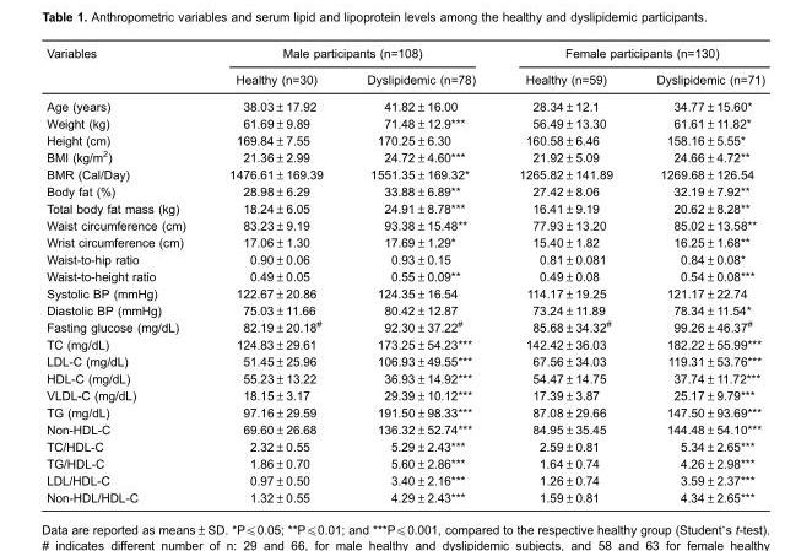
<table><thead><tr><td rowspan="2">Variables</td><td colspan="2">Male participants (n=108)</td><td colspan="2">Female participants (n=130)</td></tr><tr><td>Healthy (n=30)</td><td>Dyslipidemic (n=78)</td><td>Healthy (n=59)</td><td>Dyslipidemic (n=71)</td></tr></thead><tbody><tr><td>Age (years)</td><td>38.03±17.92</td><td>41.82±16.00</td><td>28.34±12.1</td><td>34.77±15.60*</td></tr><tr><td>Weight (kg)</td><td>61.69±9.89</td><td>71.48±12.9***</td><td>56.49±13.30</td><td>61.61±11.82*</td></tr><tr><td>Height (cm)</td><td>169.84±7.55</td><td>170.25±6.30</td><td>160.58±6.46</td><td>158.16±5.55*</td></tr><tr><td>BMI (kg/m<sup>2</sup>)</td><td>21.36±2.99</td><td>24.72±4.60***</td><td>21.92±5.09</td><td>24.66±4.72**</td></tr><tr><td>BMR (Cal/Day)</td><td>1476.61±169.39</td><td>1551.35±169.32*</td><td>1265.82±141.89</td><td>1269.68±126.54</td></tr><tr><td>Body fat (%)</td><td>28.98±6.29</td><td>33.88±6.89**</td><td>27.42±8.06</td><td>32.19±7.92**</td></tr><tr><td>Total body fat mass (kg)</td><td>18.24±6.05</td><td>24.91±8.78***</td><td>16.41±9.19</td><td>20.62±8.28**</td></tr><tr><td>Waist circumference (cm)</td><td>83.23±9.19</td><td>93.38±15.48**</td><td>77.93±13.20</td><td>85.02±13.58**</td></tr><tr><td>Wrist circumference (cm)</td><td>17.06±1.30</td><td>17.69±1.29*</td><td>15.40±1.82</td><td>16.25±1.68**</td></tr><tr><td>Waist-to-hip ratio</td><td>0.90±0.06</td><td>0.93±0.15</td><td>0.81±0.081</td><td>0.84±0.08*</td></tr><tr><td>Waist-to-height ratio</td><td>0.49±0.05</td><td>0.55±0.09**</td><td>0.49±0.08</td><td>0.54±0.08***</td></tr><tr><td>Systolic BP (mmHg)</td><td>122.67±20.86</td><td>124.35±16.54</td><td>114.17±19.25</td><td>121.17±22.74</td></tr><tr><td>Diastolic BP (mmHg)</td><td>75.03±11.66</td><td>80.42±12.87</td><td>73.24±11.89</td><td>78.34±11.54*</td></tr><tr><td>Fasting glucose (mg/dL)</td><td>82.19±20.18<sup>#</sup></td><td>92.30±37.22<sup>#</sup></td><td>85.68±34.32<sup>#</sup></td><td>99.26±46.37<sup>#</sup></td></tr><tr><td>TC (mg/dL)</td><td>124.83±29.61</td><td>173.25±54.23***</td><td>142.42±36.03</td><td>182.22±55.99***</td></tr><tr><td>LDL-C (mg/dL)</td><td>51.45±25.96</td><td>106.93±49.55***</td><td>67.56±34.03</td><td>119.31±53.76***</td></tr><tr><td>HDL-C (mg/dL)</td><td>55.23±13.22</td><td>36.93±14.92***</td><td>54.47±14.75</td><td>37.74±11.72***</td></tr><tr><td>VLDL-C (mg/dL)</td><td>18.15±3.17</td><td>29.39±10.12***</td><td>17.39±3.87</td><td>25.17±9.79***</td></tr><tr><td>TG (mg/dL)</td><td>97.16±29.59</td><td>191.50±98.33***</td><td>87.08±29.66</td><td>147.50±93.69***</td></tr><tr><td>Non-HDL-C</td><td>69.60±26.68</td><td>136.32±52.74***</td><td>84.95±35.45</td><td>144.48±54.10***</td></tr><tr><td>TC/HDL-C</td><td>2.32±0.55</td><td>5.29±2.43***</td><td>2.59±0.81</td><td>5.34±2.65***</td></tr><tr><td>TG/HDL-C</td><td>1.86±0.70</td><td>5.60±2.86***</td><td>1.64±0.74</td><td>4.26±2.98***</td></tr><tr><td>LDL/HDL-C</td><td>0.97±0.50</td><td>3.40±2.16***</td><td>1.26±0.74</td><td>3.59±2.37***</td></tr><tr><td>Non-HDL/HDL-C</td><td>1.32±0.55</td><td>4.29±2.43***</td><td>1.59±0.81</td><td>4.34±2.65***</td></tr></tbody></table>